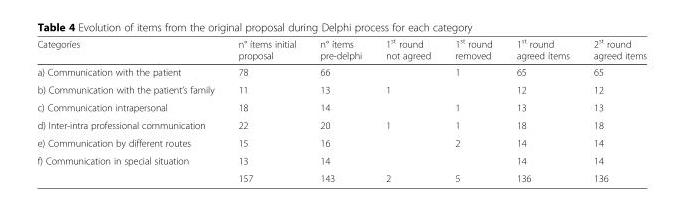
<table><thead><tr><td>Categoríes</td><td>n° ítems initial proposal</td><td>n° ítems pre-delphi</td><td>1<sup>st</sup> round not agreed</td><td>1<sup>st</sup> round removed</td><td>1<sup>st</sup> round agreed ítems</td><td>2<sup>st</sup> round agreed items</td></tr></thead><tbody><tr><td>a) Communication with the patient</td><td>78</td><td>66</td><td></td><td>1</td><td>65</td><td>65</td></tr><tr><td>b) Communication with the patient’s family</td><td>11</td><td>13</td><td>1</td><td></td><td>12</td><td>12</td></tr><tr><td>c) Communication intrapersonal</td><td>18</td><td>14</td><td></td><td>1</td><td>13</td><td>13</td></tr><tr><td>d) Inter-intra professional communication</td><td>22</td><td>20</td><td>1</td><td>1</td><td>18</td><td>18</td></tr><tr><td>e) Communication by different routes</td><td>15</td><td>16</td><td></td><td>2</td><td>14</td><td>14</td></tr><tr><td rowspan="2">f) Communication in special situation</td><td>13</td><td>14</td><td></td><td></td><td>14</td><td>14</td></tr><tr><td>157</td><td>143</td><td>2</td><td>5</td><td>136</td><td>136</td></tr></tbody></table>